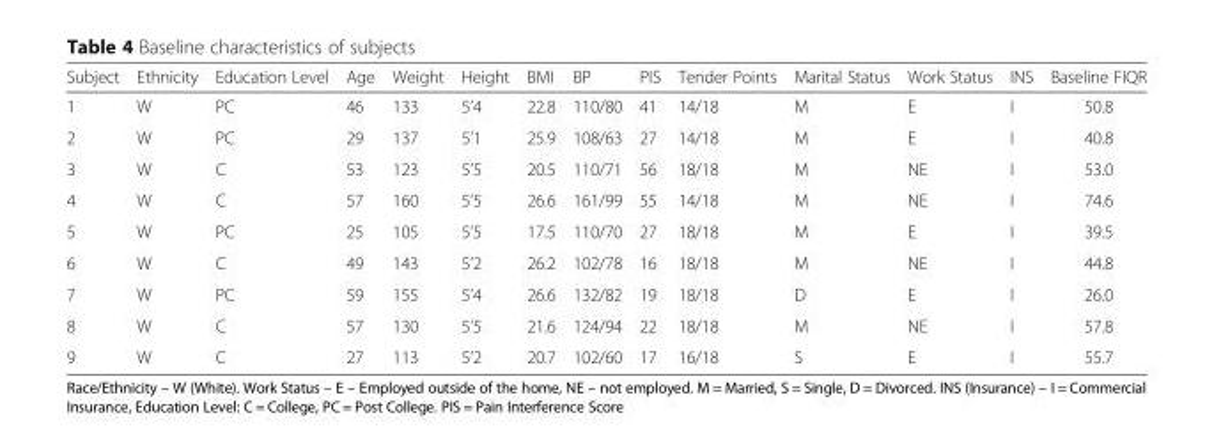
<table><thead><tr><td>Subject</td><td>Ethnicity</td><td>Education Level</td><td>Age</td><td>Weight</td><td>Height</td><td>BMI</td><td>BP</td><td>PIS</td><td>Tender Points</td><td>Marital Status</td><td>Work Status</td><td>INS</td><td>Baseline FIQR</td></tr></thead><tbody><tr><td>1</td><td>W</td><td>PC</td><td>46</td><td>133</td><td>5’4</td><td>22.8</td><td>110/80</td><td>41</td><td>14/18</td><td>M</td><td>E</td><td>I</td><td>50.8</td></tr><tr><td>2</td><td>W</td><td>PC</td><td>29</td><td>137</td><td>5’1</td><td>25.9</td><td>108/63</td><td>27</td><td>14/18</td><td>M</td><td>E</td><td>I</td><td>40.8</td></tr><tr><td>3</td><td>W</td><td>C</td><td>53</td><td>123</td><td>5’5</td><td>20.5</td><td>110/71</td><td>56</td><td>18/18</td><td>M</td><td>NE</td><td>I</td><td>53.0</td></tr><tr><td>4</td><td>W</td><td>C</td><td>57</td><td>160</td><td>5’5</td><td>26.6</td><td>161/99</td><td>55</td><td>14/18</td><td>M</td><td>NE</td><td>I</td><td>74.6</td></tr><tr><td>5</td><td>W</td><td>PC</td><td>25</td><td>105</td><td>5’5</td><td>17.5</td><td>110/70</td><td>27</td><td>18/18</td><td>M</td><td>E</td><td>I</td><td>39.5</td></tr><tr><td>6</td><td>W</td><td>C</td><td>49</td><td>143</td><td>5’2</td><td>26.2</td><td>102/78</td><td>16</td><td>18/18</td><td>M</td><td>NE</td><td>I</td><td>44.8</td></tr><tr><td>7</td><td>W</td><td>PC</td><td>59</td><td>155</td><td>5’4</td><td>26.6</td><td>132/82</td><td>19</td><td>18/18</td><td>D</td><td>E</td><td>I</td><td>26.0</td></tr><tr><td>8</td><td>W</td><td>C</td><td>57</td><td>130</td><td>5’5</td><td>21.6</td><td>124/94</td><td>22</td><td>18/18</td><td>M</td><td>NE</td><td>I</td><td>57.8</td></tr><tr><td>9</td><td>W</td><td>C</td><td>27</td><td>113</td><td>5’2</td><td>20.7</td><td>102/60</td><td>17</td><td>16/18</td><td>S</td><td>E</td><td>I</td><td>55.7</td></tr></tbody></table>